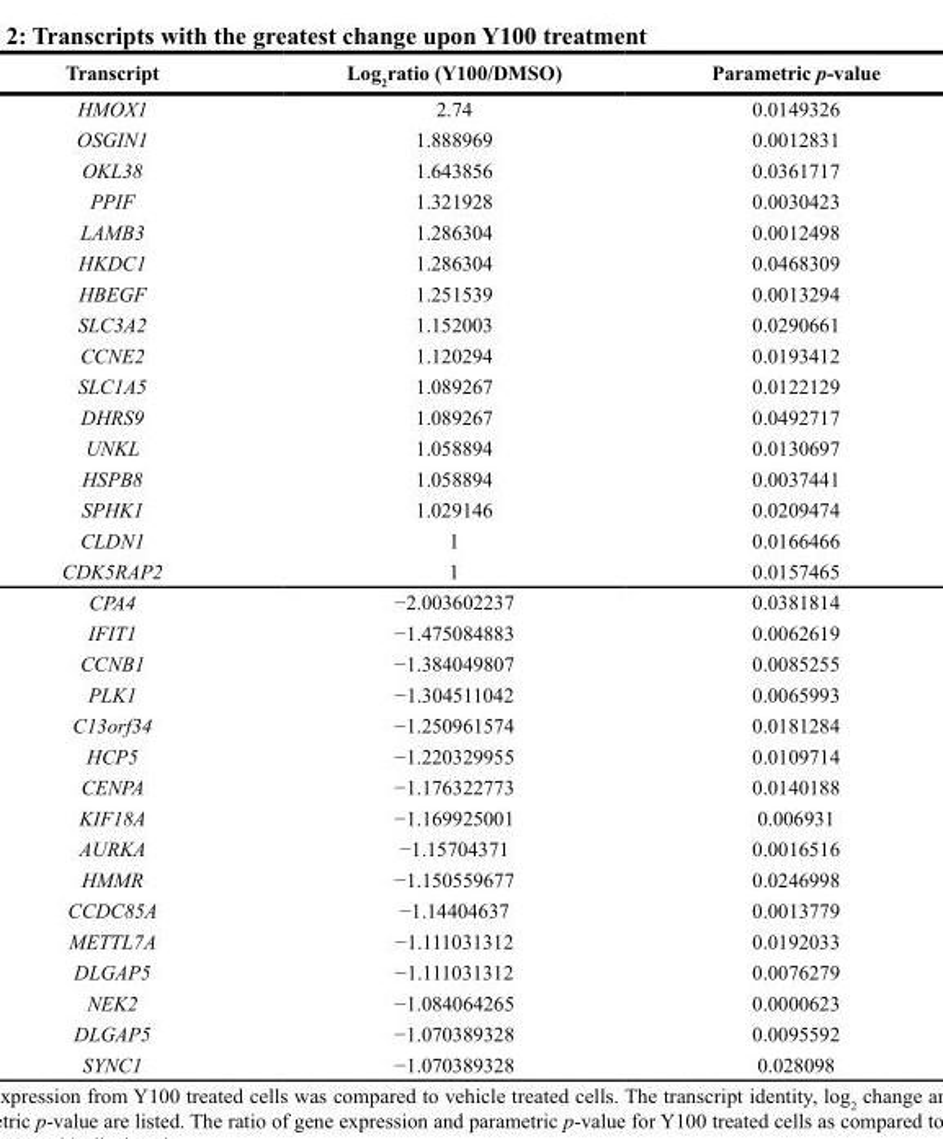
<table><thead><tr><td>Transcript</td><td>Log<sub>2</sub>ratio (Y100/DMSO)</td><td>Parametric p-value</td></tr></thead><tbody><tr><td>HMOX1</td><td>2.74</td><td>0.0149326</td></tr><tr><td>OSGIN1</td><td>1.888969</td><td>0.0012831</td></tr><tr><td>OKL38</td><td>1.643856</td><td>0.0361717</td></tr><tr><td>PPIF</td><td>1.321928</td><td>0.0030423</td></tr><tr><td>LAMB3</td><td>1.286304</td><td>0.0012498</td></tr><tr><td>HKDC1</td><td>1.286304</td><td>0.0468309</td></tr><tr><td>HBEGF</td><td>1.251539</td><td>0.0013294</td></tr><tr><td>SLC3A2</td><td>1.152003</td><td>0.0290661</td></tr><tr><td>CCNE2</td><td>1.120294</td><td>0.0193412</td></tr><tr><td>SLC1A5</td><td>1.089267</td><td>0.0122129</td></tr><tr><td>DHRS9</td><td>1.089267</td><td>0.0492717</td></tr><tr><td>UNKL</td><td>1.058894</td><td>0.0130697</td></tr><tr><td>HSPB8</td><td>1.058894</td><td>0.0037441</td></tr><tr><td>SPHK1</td><td>1.029146</td><td>0.0209474</td></tr><tr><td>CLDN1</td><td>1</td><td>0.0166466</td></tr><tr><td>CDK5RAP2</td><td>1</td><td>0.0157465</td></tr><tr><td>CPA4</td><td>−2.003602237</td><td>0.0381814</td></tr><tr><td>IFIT1</td><td>−1.475084883</td><td>0.0062619</td></tr><tr><td>CCNB1</td><td>−1.384049807</td><td>0.0085255</td></tr><tr><td>PLK1</td><td>−1.304511042</td><td>0.0065993</td></tr><tr><td>C13orf34</td><td>−1.250961574</td><td>0.0181284</td></tr><tr><td>HCP5</td><td>−1.220329955</td><td>0.0109714</td></tr><tr><td>CENPA</td><td>−1.176322773</td><td>0.0140188</td></tr><tr><td>KIF18A</td><td>−1.169925001</td><td>0.006931</td></tr><tr><td>AURKA</td><td>−1.15704371</td><td>0.0016516</td></tr><tr><td>HMMR</td><td>−1.150559677</td><td>0.0246998</td></tr><tr><td>CCDC85A</td><td>−1.14404637</td><td>0.0013779</td></tr><tr><td>METTL7A</td><td>−1.111031312</td><td>0.0192033</td></tr><tr><td>DLGAP5</td><td>−1.111031312</td><td>0.0076279</td></tr><tr><td>NEK2</td><td>−1.084064265</td><td>0.0000623</td></tr><tr><td>DLGAP5</td><td>−1.070389328</td><td>0.0095592</td></tr><tr><td>SYNC1</td><td>−1.070389328</td><td>0.028098</td></tr></tbody></table>